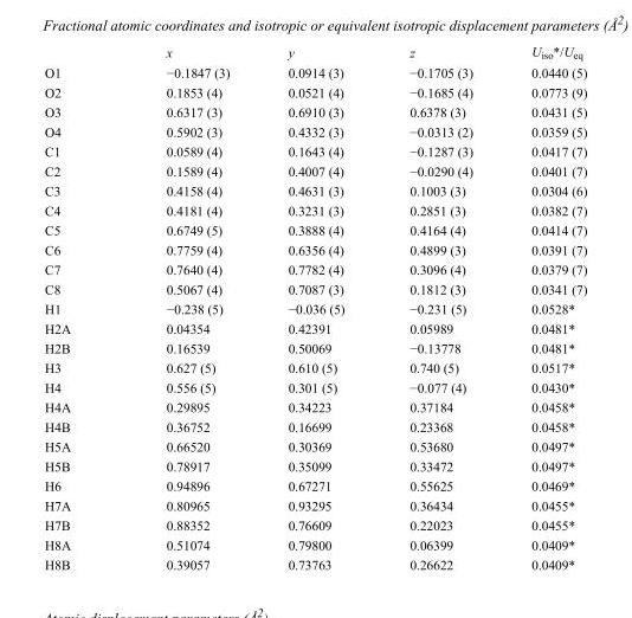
<table><thead><tr><td></td><td>x</td><td>y</td><td>z</td><td>U<sub>iso</sub>*/U<sub>eq</sub></td></tr></thead><tbody><tr><td>O1</td><td>−0.1847 (3)</td><td>0.0914 (3)</td><td>−0.1705 (3)</td><td>0.0440 (5)</td></tr><tr><td>O2</td><td>0.1853 (4)</td><td>0.0521 (4)</td><td>−0.1685 (4)</td><td>0.0773 (9)</td></tr><tr><td>O3</td><td>0.6317 (3)</td><td>0.6910 (3)</td><td>0.6378 (3)</td><td>0.0431 (5)</td></tr><tr><td>O4</td><td>0.5902 (3)</td><td>0.4332 (3)</td><td>−0.0313 (2)</td><td>0.0359 (5)</td></tr><tr><td>C1</td><td>0.0589 (4)</td><td>0.1643 (4)</td><td>−0.1287 (3)</td><td>0.0417 (7)</td></tr><tr><td>C2</td><td>0.1589 (4)</td><td>0.4007 (4)</td><td>−0.0290 (4)</td><td>0.0401 (7)</td></tr><tr><td>C3</td><td>0.4158 (4)</td><td>0.4631 (3)</td><td>0.1003 (3)</td><td>0.0304 (6)</td></tr><tr><td>C4</td><td>0.4181 (4)</td><td>0.3231 (3)</td><td>0.2851 (3)</td><td>0.0382 (7)</td></tr><tr><td>C5</td><td>0.6749 (5)</td><td>0.3888 (4)</td><td>0.4164 (4)</td><td>0.0414 (7)</td></tr><tr><td>C6</td><td>0.7759 (4)</td><td>0.6356 (4)</td><td>0.4899 (3)</td><td>0.0391 (7)</td></tr><tr><td>C7</td><td>0.7640 (4)</td><td>0.7782 (4)</td><td>0.3096 (4)</td><td>0.0379 (7)</td></tr><tr><td>C8</td><td>0.5067 (4)</td><td>0.7087 (3)</td><td>0.1812 (3)</td><td>0.0341 (7)</td></tr><tr><td>H1</td><td>−0.238 (5)</td><td>−0.036 (5)</td><td>−0.231 (5)</td><td>0.0528*</td></tr><tr><td>H2A</td><td>0.04354</td><td>0.42391</td><td>0.05989</td><td>0.0481*</td></tr><tr><td>H2B</td><td>0.16539</td><td>0.50069</td><td>−0.13778</td><td>0.0481*</td></tr><tr><td>H3</td><td>0.627 (5)</td><td>0.610 (5)</td><td>0.740 (5)</td><td>0.0517*</td></tr><tr><td>H4</td><td>0.556 (5)</td><td>0.301 (5)</td><td>−0.077 (4)</td><td>0.0430*</td></tr><tr><td>H4A</td><td>0.29895</td><td>0.34223</td><td>0.37184</td><td>0.0458*</td></tr><tr><td>H4B</td><td>0.36752</td><td>0.16699</td><td>0.23368</td><td>0.0458*</td></tr><tr><td>H5A</td><td>0.66520</td><td>0.30369</td><td>0.53680</td><td>0.0497*</td></tr><tr><td>H5B</td><td>0.78917</td><td>0.35099</td><td>0.33472</td><td>0.0497*</td></tr><tr><td>H6</td><td>0.94896</td><td>0.67271</td><td>0.55625</td><td>0.0469*</td></tr><tr><td>H7A</td><td>0.80965</td><td>0.93295</td><td>0.36434</td><td>0.0455*</td></tr><tr><td>H7B</td><td>0.88352</td><td>0.76609</td><td>0.22023</td><td>0.0455*</td></tr><tr><td>H8A</td><td>0.51074</td><td>0.79800</td><td>0.06399</td><td>0.0409*</td></tr><tr><td>H8B</td><td>0.39057</td><td>0.73763</td><td>0.26622</td><td>0.0409*</td></tr></tbody></table>